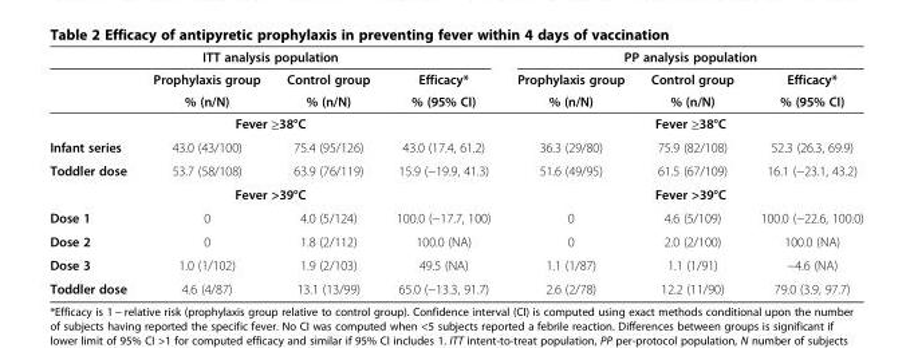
<table><thead><tr><td colspan="4">ITT analysis population</td><td colspan="3">PP analysis population</td></tr><tr><td rowspan="2"></td><td rowspan="2">Prophylaxis group % (n/N)</td><td rowspan="2">Control group % (n/N)</td><td rowspan="2">Efficacy* % (95% CI)</td><td rowspan="2">Prophylaxis group % (n/N)</td><td rowspan="2">Control group % (n/N)</td><td rowspan="2">Efficacy* % (95% CI)</td></tr><tr></tr></thead><tbody><tr><td colspan="4">Fever ≥38°C</td><td colspan="3">Fever ≥38°C</td></tr><tr><td>Infant series</td><td>43.0 (43/100)</td><td>75.4 (95/126)</td><td>43.0 (17.4, 61.2)</td><td>36.3 (29/80)</td><td>75.9 (82/108)</td><td>52.3 (26.3, 69.9)</td></tr><tr><td>Toddler dose</td><td>53.7 (58/108)</td><td>63.9 (76/119)</td><td>15.9 (−19.9, 41.3)</td><td>51.6 (49/95)</td><td>61.5 (67/109)</td><td>16.1 (−23.1, 43.2)</td></tr><tr><td colspan="4">Fever &gt;39°C</td><td colspan="3">Fever &gt;39°C</td></tr><tr><td>Dose 1</td><td>0</td><td>4.0 (5/124)</td><td>100.0 (−17.7, 100)</td><td>0</td><td>4.6 (5/109)</td><td>100.0 (−22.6, 100.0)</td></tr><tr><td>Dose 2</td><td>0</td><td>1.8 (2/112)</td><td>100.0 (NA)</td><td>0</td><td>2.0 (2/100)</td><td>100.0 (NA)</td></tr><tr><td>Dose 3</td><td>1.0 (1/102)</td><td>1.9 (2/103)</td><td>49.5 (NA)</td><td>1.1 (1/87)</td><td>1.1 (1/91)</td><td>−4.6 (NA)</td></tr><tr><td>Toddler dose</td><td>4.6 (4/87)</td><td>13.1 (13/99)</td><td>65.0 (−13.3, 91.7)</td><td>2.6 (2/78)</td><td>12.2 (11/90)</td><td>79.0 (3.9, 97.7)</td></tr></tbody></table>